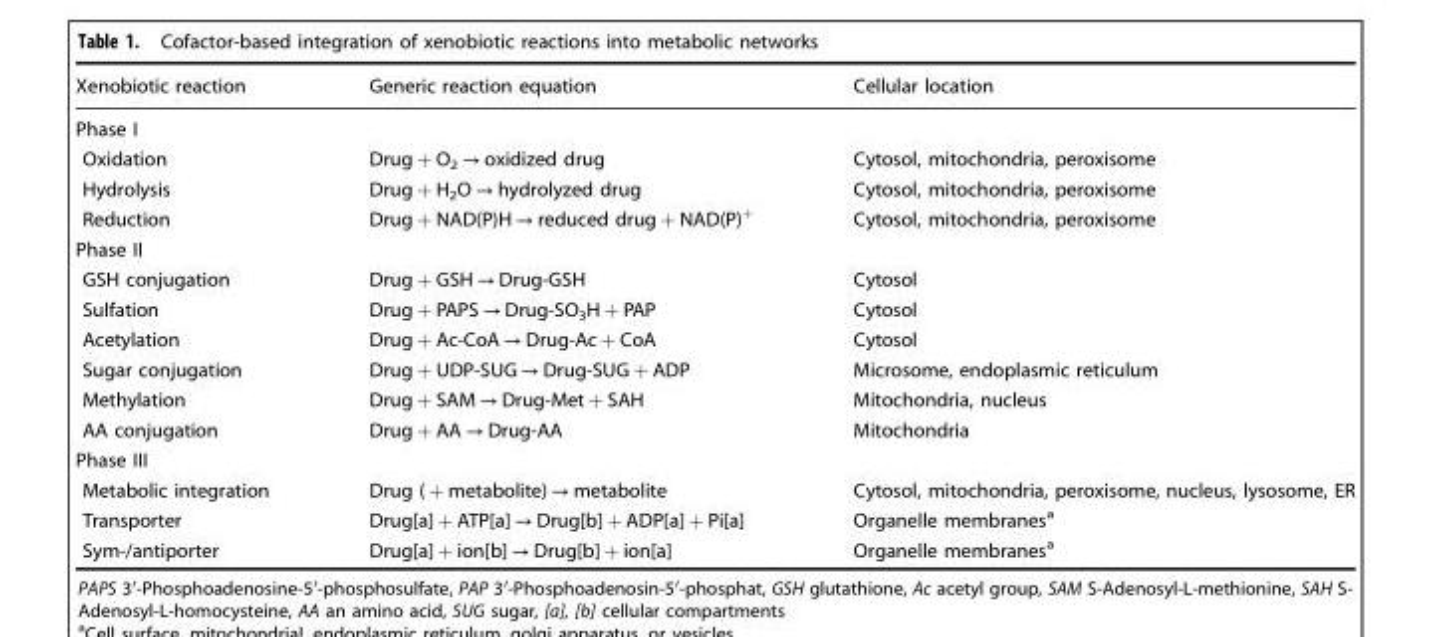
<table><thead><tr><td>Xenobiotic reaction</td><td>Generic reaction equation</td><td>Cellular location</td></tr></thead><tbody><tr><td colspan="3">Phase I</td></tr><tr><td>Oxidation</td><td>Drug + O<sub>2</sub> → oxidized drug</td><td>Cytosol, mitochondria, peroxisome</td></tr><tr><td>Hydrolysis</td><td>Drug + H<sub>2</sub>O → hydrolyzed drug</td><td>Cytosol, mitochondria, peroxisome</td></tr><tr><td>Reduction</td><td>Drug + NAD(P)H → reduced drug + NAD(P)<sup>+</sup></td><td>Cytosol, mitochondria, peroxisome</td></tr><tr><td colspan="3">Phase II</td></tr><tr><td>GSH conjugation</td><td>Drug + GSH → Drug-GSH</td><td>Cytosol</td></tr><tr><td>Sulfation</td><td>Drug + PAPS → Drug-SO<sub>3</sub>H + PAP</td><td>Cytosol</td></tr><tr><td>Acetylation</td><td>Drug + Ac-CoA → Drug-Ac + CoA</td><td>Cytosol</td></tr><tr><td>Sugar conjugation</td><td>Drug + UDP-SUG → Drug-SUG + ADP</td><td>Microsome, endoplasmic reticulum</td></tr><tr><td>Methylation</td><td>Drug + SAM → Drug-Met + SAH</td><td>Mitochondria, nucleus</td></tr><tr><td>AA conjugation</td><td>Drug + AA → Drug-AA</td><td>Mitochondria</td></tr><tr><td colspan="3">Phase III</td></tr><tr><td>Metabolic integration</td><td>Drug ( + metabolite) → metabolite</td><td>Cytosol, mitochondria, peroxisome, nucleus, lysosome, ER</td></tr><tr><td>Transporter</td><td>Drug[a] + ATP[a] → Drug[b] + ADP[a] + Pi[a]</td><td>Organelle membranes<sup>a</sup></td></tr><tr><td>Sym-/antiporter</td><td>Drug[a] + ion[b] → Drug[b] + ion[a]</td><td>Organelle membranes<sup>a</sup></td></tr></tbody></table>